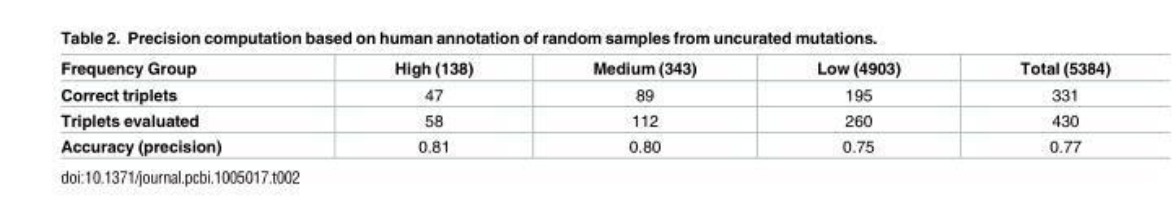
<table><thead><tr><td>Frequency Group</td><td>High (138)</td><td>Medium (343)</td><td>Low (4903)</td><td>Total (5384)</td></tr></thead><tbody><tr><td>Correct triplets</td><td>47</td><td>89</td><td>195</td><td>331</td></tr><tr><td>Triplets evaluated</td><td>58</td><td>112</td><td>260</td><td>430</td></tr><tr><td>Accuracy (precision)</td><td>0.81</td><td>0.80</td><td>0.75</td><td>0.77</td></tr></tbody></table>